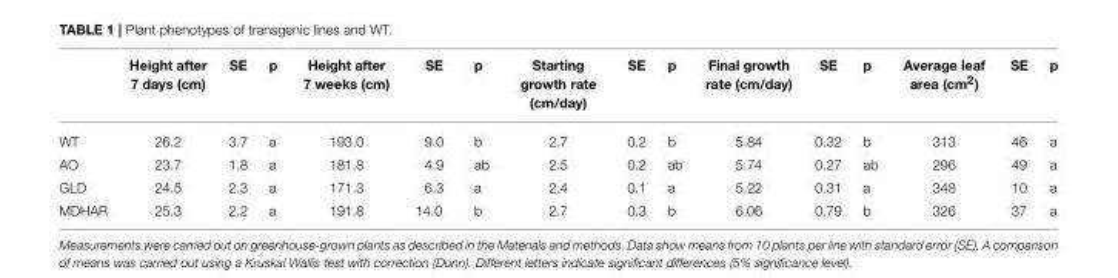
<table><thead><tr><td></td><td>Height after 7 days (cm)</td><td>SE</td><td>p</td><td>Height after 7 weeks (cm)</td><td>SE</td><td>p</td><td>Starting growth rate (cm/day)</td><td>SE</td><td>p</td><td>Final growth rate (cm/day)</td><td>SE</td><td>p</td><td>Average leaf area (cm<sup>2</sup>)</td><td>SE</td><td>p</td></tr></thead><tbody><tr><td>WT</td><td>26.2</td><td>3.7</td><td>a</td><td>193.0</td><td>9.0</td><td>b</td><td>2.7</td><td>0.2</td><td>b</td><td>5.84</td><td>0.32</td><td>b</td><td>313</td><td>46</td><td>a</td></tr><tr><td>AO</td><td>23.7</td><td>1.8</td><td>a</td><td>181.8</td><td>4.9</td><td>ab</td><td>2.5</td><td>0.2</td><td>ab</td><td>5.74</td><td>0.27</td><td>ab</td><td>296</td><td>49</td><td>a</td></tr><tr><td>GLD</td><td>24.5</td><td>2.3</td><td>a</td><td>171.3</td><td>6.3</td><td>a</td><td>2.4</td><td>0.1</td><td>a</td><td>5.22</td><td>0.31</td><td>a</td><td>348</td><td>10</td><td>a</td></tr><tr><td>MDHAR</td><td>25.3</td><td>2.2</td><td>a</td><td>191.8</td><td>14.0</td><td>b</td><td>2.7</td><td>0.3</td><td>b</td><td>6.06</td><td>0.79</td><td>b</td><td>326</td><td>37</td><td>a</td></tr></tbody></table>